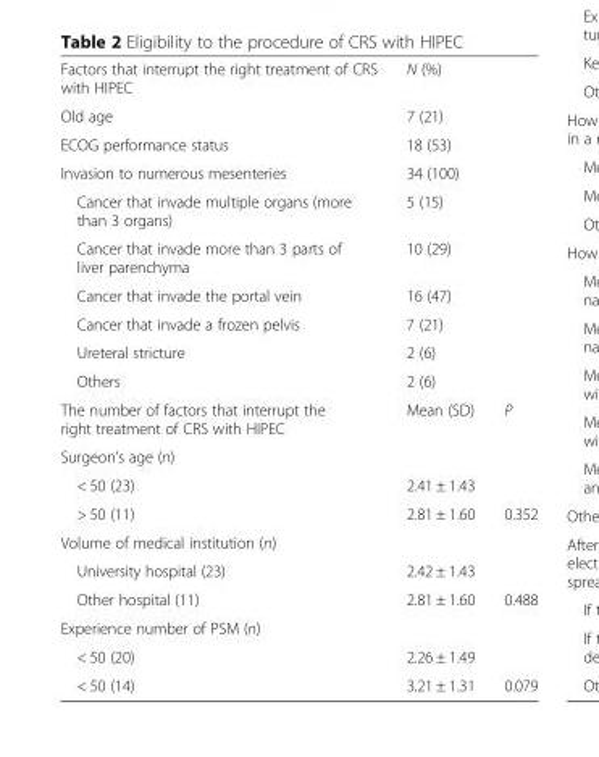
<table><tbody><tr><td>Factors that interrupt the right treatment of CRS with HIPEC</td><td>N (%)</td><td></td></tr><tr><td>Old age</td><td>7 (21)</td><td></td></tr><tr><td>ECOG performance status</td><td>18 (53)</td><td></td></tr><tr><td>Invasion to numerous mesenteries</td><td>34 (100)</td><td></td></tr><tr><td>Cancer that invade multiple organs (more than 3 organs)</td><td>5 (15)</td><td></td></tr><tr><td>Cancer that invade more than 3 parts of liver parenchyma</td><td>10 (29)</td><td></td></tr><tr><td>Cancer that invade the portal vein</td><td>16 (47)</td><td></td></tr><tr><td>Cancer that invade a frozen pelvis</td><td>7 (21)</td><td></td></tr><tr><td>Ureteral stricture</td><td>2 (6)</td><td></td></tr><tr><td>Others</td><td>2 (6)</td><td></td></tr><tr><td>The number of factors that interrupt the right treatment of CRS with HIPEC</td><td>Mean (SD)</td><td>P</td></tr><tr><td colspan="3">Surgeon’s age (n)</td></tr><tr><td>&lt; 50 (23)</td><td>2.41 ± 1.43</td><td></td></tr><tr><td>&gt; 50 (11)</td><td>2.81 ± 1.60</td><td>0.352</td></tr><tr><td colspan="3">Volume of medical institution (n)</td></tr><tr><td>University hospital (23)</td><td>2.42 ± 1.43</td><td></td></tr><tr><td>Other hospital (11)</td><td>2.81 ± 1.60</td><td>0.488</td></tr><tr><td colspan="3">Experience number of PSM (n)</td></tr><tr><td>&lt; 50 (20)</td><td>2.26 ± 1.49</td><td></td></tr><tr><td>&lt; 50 (14)</td><td>3.21 ± 1.31</td><td>0.079</td></tr></tbody></table>